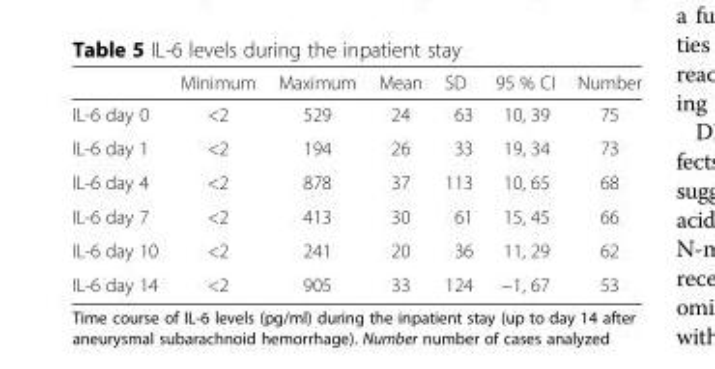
<table><thead><tr><td></td><td>Minimum</td><td>Maximum</td><td>Mean</td><td>SD</td><td>95 % CI</td><td>Number</td></tr></thead><tbody><tr><td>IL-6 day 0</td><td>&lt;2</td><td>529</td><td>24</td><td>63</td><td>10, 39</td><td>75</td></tr><tr><td>IL-6 day 1</td><td>&lt;2</td><td>194</td><td>26</td><td>33</td><td>19, 34</td><td>73</td></tr><tr><td>IL-6 day 4</td><td>&lt;2</td><td>878</td><td>37</td><td>113</td><td>10, 65</td><td>68</td></tr><tr><td>IL-6 day 7</td><td>&lt;2</td><td>413</td><td>30</td><td>61</td><td>15, 45</td><td>66</td></tr><tr><td>IL-6 day 10</td><td>&lt;2</td><td>241</td><td>20</td><td>36</td><td>11, 29</td><td>62</td></tr><tr><td>IL-6 day 14</td><td>&lt;2</td><td>905</td><td>33</td><td>124</td><td>−1, 67</td><td>53</td></tr></tbody></table>